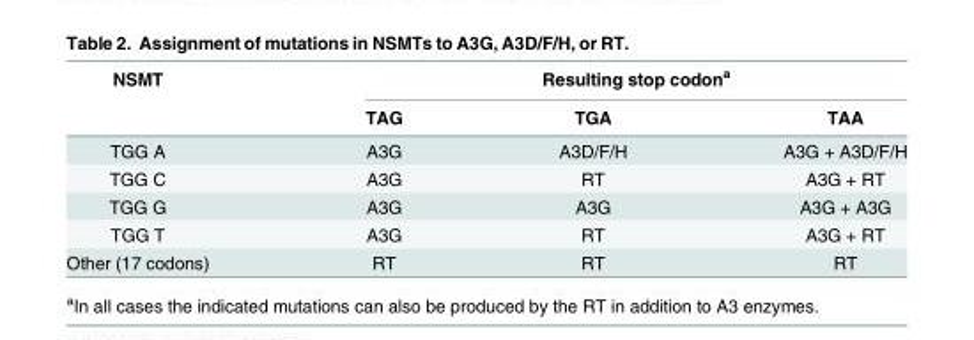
<table><thead><tr><td rowspan="2">NSMT</td><td colspan="3">Resulting stop codon<sup>a</sup></td></tr><tr><td>TAG</td><td>TGA</td><td>TAA</td></tr></thead><tbody><tr><td>TGG A</td><td>A3G</td><td>A3D/F/H</td><td>A3G + A3D/F/H</td></tr><tr><td>TGG C</td><td>A3G</td><td>RT</td><td>A3G + RT</td></tr><tr><td>TGG G</td><td>A3G</td><td>A3G</td><td>A3G + A3G</td></tr><tr><td>TGG T</td><td>A3G</td><td>RT</td><td>A3G + RT</td></tr><tr><td>Other (17 codons)</td><td>RT</td><td>RT</td><td>RT</td></tr></tbody></table>